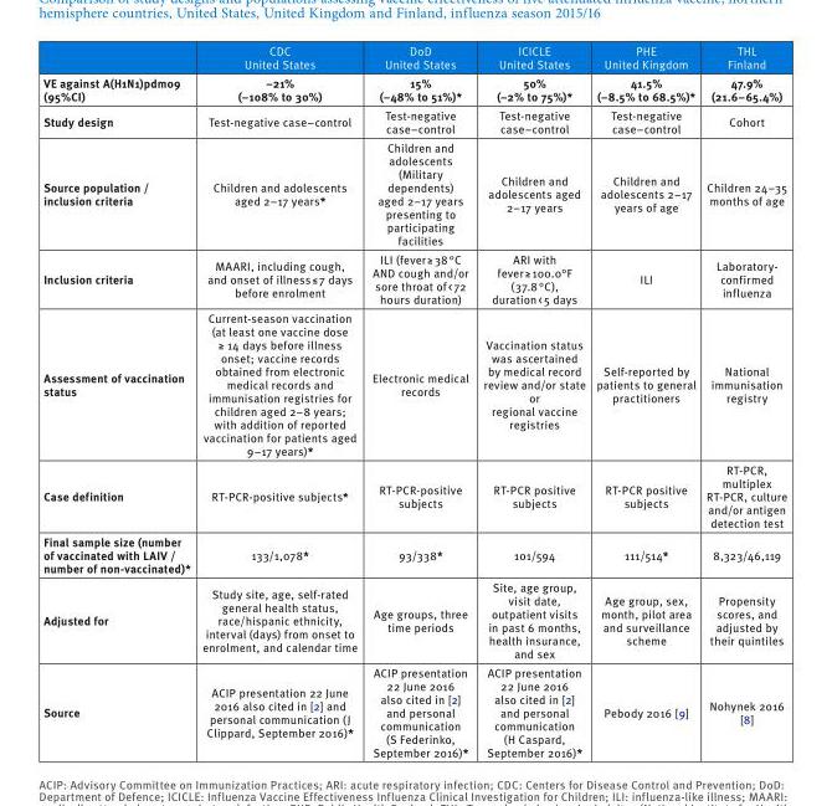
<table><thead><tr><td></td><td>CDC United States</td><td>DoD United States</td><td>ICICLE United States</td><td>PHE United Kingdom</td><td>THL Finland</td></tr></thead><tbody><tr><td>VE against A(H1N1)pdm09 (95%CI)</td><td>−21% (−108% to 30%)</td><td>15% (−48% to 51%)*</td><td>50% (−2% to 75%)*</td><td>41.5% (−8.5% to 68.5%)*</td><td>47.9% (21.6–65.4%)</td></tr><tr><td>Study design</td><td>Test-negative case–control</td><td>Test-negative case–control</td><td>Test-negative case–control</td><td>Test-negative case–control</td><td>Cohort</td></tr><tr><td>Source population / inclusion criteria</td><td>Children and adolescents aged 2–17 years*</td><td>Children and adolescents (Military dependents) aged 2–17 years presenting to participating facilities</td><td>Children and adolescents aged 2–17 years</td><td>Children and adolescents 2–17 years of age</td><td>Children 24–35 months of age</td></tr><tr><td>Inclusion criteria</td><td>MAARI, including cough, and onset of illness ≤ 7 days before enrolment</td><td>ILI (fever ≥ 38 °C AND cough and/or sore throat of &lt; 72 hours duration)</td><td>ARI with fever ≥ 100.0°F (37.8 °C), duration &lt; 5 days</td><td>ILI</td><td>Laboratory- confirmed influenza</td></tr><tr><td>Assessment of vaccination status</td><td>Current-season vaccination (at least one vaccine dose ≥ 14 days before illness onset; vaccine records obtained from electronic medical records and immunisation registries for children aged 2–8 years; with addition of reported vaccination for patients aged 9–17 years)*</td><td>Electronic medical records</td><td>Vaccination status was ascertained by medical record review and/or state or regional vaccine registries</td><td>Self-reported by patients to general practitioners</td><td>National immunisation registry</td></tr><tr><td>Case definition</td><td>RT-PCR-positive subjects*</td><td>RT-PCR-positive subjects</td><td>RT-PCR positive subjects</td><td>RT-PCR positive subjects</td><td>RT-PCR, multiplex RT-PCR, culture and/or antigen detection test</td></tr><tr><td>Final sample size (number of vaccinated with LAIV / number of non-vaccinated)*</td><td>133/1,078*</td><td>93/338*</td><td>101/594</td><td>111/514*</td><td>8,323/46,119</td></tr><tr><td>Adjusted for</td><td>Study site, age, self-rated general health status, race/hispanic ethnicity, interval (days) from onset to enrolment, and calendar time</td><td>Age groups, three time periods</td><td>Site, age group, visit date, outpatient visits in past 6 months, health insurance, and sex</td><td>Age group, sex, month, pilot area and surveillance scheme</td><td>Propensity scores, and adjusted by their quintiles</td></tr><tr><td>Source</td><td>ACIP presentation 22 June 2016 also cited in [2] and personal communication (J Clippard, September 2016)*</td><td>ACIP presentation 22 June 2016 also cited in [2] and personal communication (S Federinko, September 2016)*</td><td>ACIP presentation 22 June 2016 also cited in [2] and personal communication (H Caspard, September 2016)*</td><td>Pebody 2016 [9]</td><td>Nohynek 2016 [8]</td></tr></tbody></table>